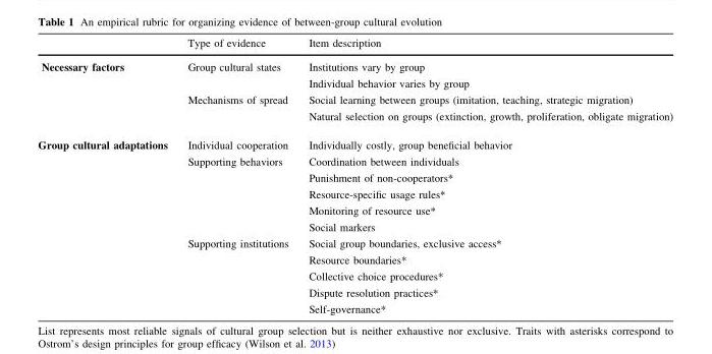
<table><thead><tr><td></td><td>Type of evidence</td><td>Item description</td></tr></thead><tbody><tr><td rowspan="4">Necessary factors</td><td rowspan="2">Group cultural states</td><td>Institutions vary by group</td></tr><tr><td>Individual behavior varies by group</td></tr><tr><td rowspan="2">Mechanisms of spread</td><td>Social learning between groups (imitation, teaching, strategic migration)</td></tr><tr><td>Natural selection on groups (extinction, growth, proliferation, obligate migration)</td></tr><tr><td rowspan="11">Group cultural adaptations</td><td>Individual cooperation</td><td>Individually costly, group beneficial behavior</td></tr><tr><td rowspan="5">Supporting behaviors</td><td>Coordination between individuals</td></tr><tr><td>Punishment of non-cooperators*</td></tr><tr><td>Resource-specific usage rules*</td></tr><tr><td>Monitoring of resource use*</td></tr><tr><td>Social markers</td></tr><tr><td rowspan="5">Supporting institutions</td><td>Social group boundaries, exclusive access*</td></tr><tr><td>Resource boundaries*</td></tr><tr><td>Collective choice procedures*</td></tr><tr><td>Dispute resolution practices*</td></tr><tr><td>Self-governance*</td></tr></tbody></table>